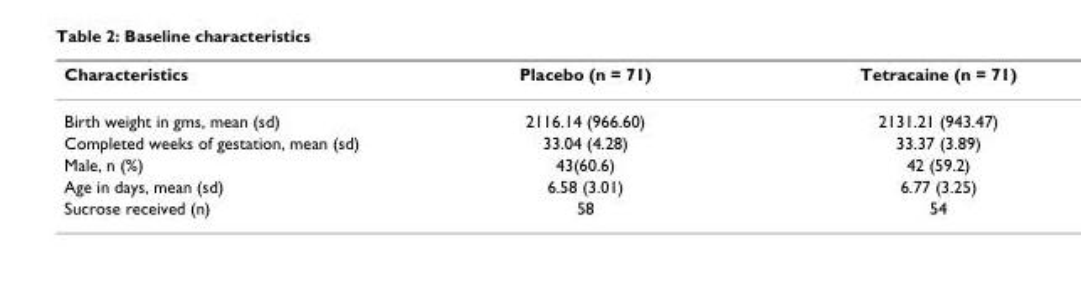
<table><thead><tr><td>Characteristics</td><td>Placebo (n = 71)</td><td>Tetracaine (n = 71)</td></tr></thead><tbody><tr><td>Birth weight in gms, mean (sd)</td><td>2116.14 (966.60)</td><td>2131.21 (943.47)</td></tr><tr><td>Completed weeks of gestation, mean (sd)</td><td>33.04 (4.28)</td><td>33.37 (3.89)</td></tr><tr><td>Male, n (%)</td><td>43(60.6)</td><td>42 (59.2)</td></tr><tr><td>Age in days, mean (sd)</td><td>6.58 (3.01)</td><td>6.77 (3.25)</td></tr><tr><td>Sucrose received (n)</td><td>58</td><td>54</td></tr></tbody></table>